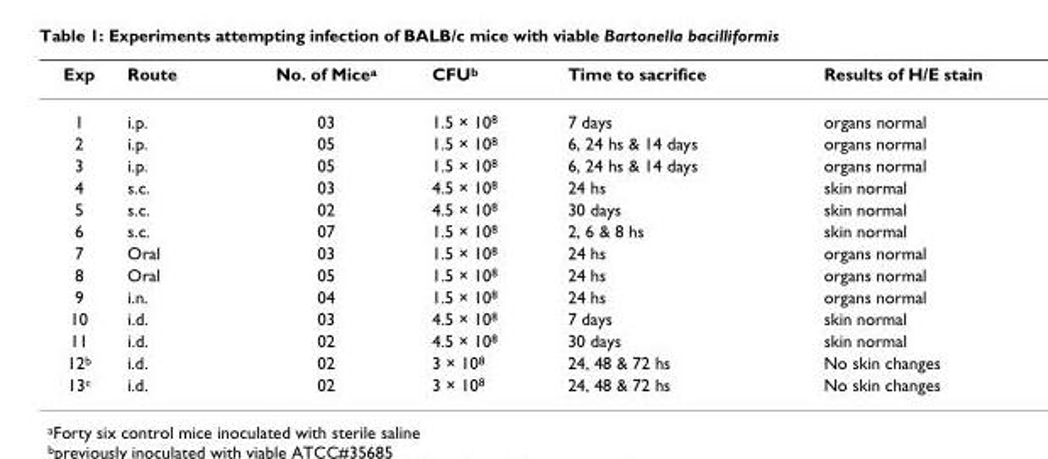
<table><thead><tr><td>Exp</td><td>Route</td><td>No. of Mice<sup>a</sup></td><td>CFU<sup>b</sup></td><td>Time to sacrifice</td><td>Results of H/E stain</td></tr></thead><tbody><tr><td>1</td><td>i.p.</td><td>03</td><td>1.5 × 10<sup>8</sup></td><td>7 days</td><td>organs normal</td></tr><tr><td>2</td><td>i.p.</td><td>05</td><td>1.5 × 10<sup>8</sup></td><td>6, 24 hs &amp; 14 days</td><td>organs normal</td></tr><tr><td>3</td><td>i.p.</td><td>05</td><td>1.5 × 10<sup>8</sup></td><td>6, 24 hs &amp; 14 days</td><td>organs normal</td></tr><tr><td>4</td><td>s.c.</td><td>03</td><td>4.5 × 10<sup>8</sup></td><td>24 hs</td><td>skin normal</td></tr><tr><td>5</td><td>s.c.</td><td>02</td><td>4.5 × 10<sup>8</sup></td><td>30 days</td><td>skin normal</td></tr><tr><td>6</td><td>s.c.</td><td>07</td><td>1.5 × 10<sup>8</sup></td><td>2, 6 &amp; 8 hs</td><td>skin normal</td></tr><tr><td>7</td><td>Oral</td><td>03</td><td>1.5 × 10<sup>8</sup></td><td>24 hs</td><td>organs normal</td></tr><tr><td>8</td><td>Oral</td><td>05</td><td>1.5 × 10<sup>8</sup></td><td>24 hs</td><td>organs normal</td></tr><tr><td>9</td><td>i.n.</td><td>04</td><td>1.5 × 10<sup>8</sup></td><td>24 hs</td><td>organs normal</td></tr><tr><td>10</td><td>i.d.</td><td>03</td><td>4.5 × 10<sup>8</sup></td><td>7 days</td><td>skin normal</td></tr><tr><td>11</td><td>i.d.</td><td>02</td><td>4.5 × 10<sup>8</sup></td><td>30 days</td><td>skin normal</td></tr><tr><td>12<sup>b</sup></td><td>i.d.</td><td>02</td><td>3 × 10<sup>8</sup></td><td>24, 48 &amp; 72 hs</td><td>No skin changes</td></tr><tr><td>13<sup>c</sup></td><td>i.d.</td><td>02</td><td>3 × 10<sup>8</sup></td><td>24, 48 &amp; 72 hs</td><td>No skin changes</td></tr></tbody></table>